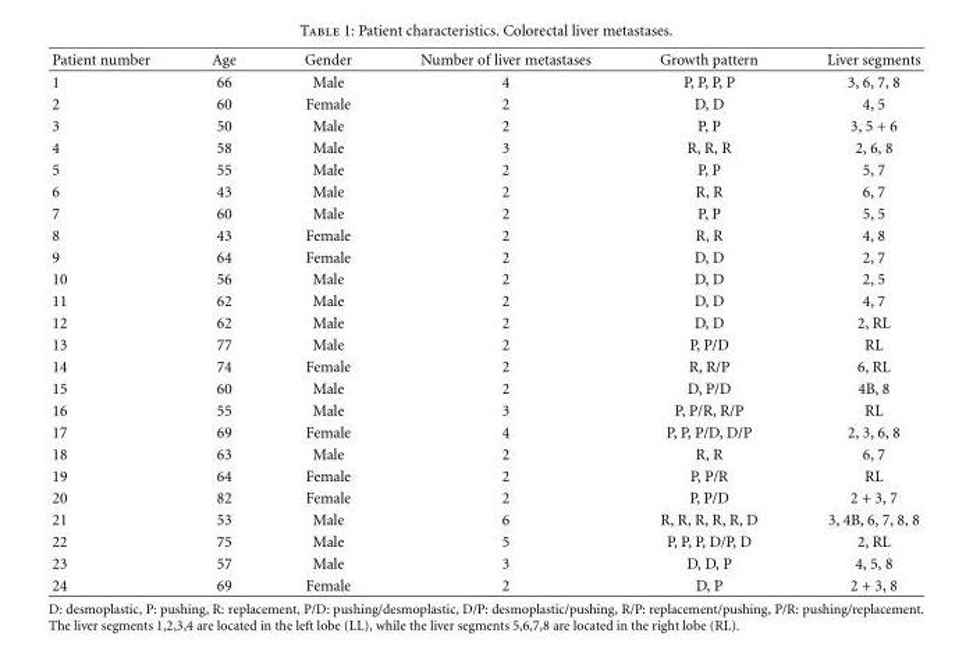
<table><thead><tr><td>Patient number</td><td>Age</td><td>Gender</td><td>Number of liver metastases</td><td>Growth pattern</td><td>Liver segments</td></tr></thead><tbody><tr><td>1</td><td>66</td><td>Male</td><td>4</td><td>P, P, P, P</td><td>3, 6, 7, 8</td></tr><tr><td>2</td><td>60</td><td>Female</td><td>2</td><td>D, D</td><td>4, 5</td></tr><tr><td>3</td><td>50</td><td>Male</td><td>2</td><td>P, P</td><td>3, 5 + 6</td></tr><tr><td>4</td><td>58</td><td>Male</td><td>3</td><td>R, R, R</td><td>2, 6, 8</td></tr><tr><td>5</td><td>55</td><td>Male</td><td>2</td><td>P, P</td><td>5, 7</td></tr><tr><td>6</td><td>43</td><td>Male</td><td>2</td><td>R, R</td><td>6, 7</td></tr><tr><td>7</td><td>60</td><td>Male</td><td>2</td><td>P, P</td><td>5, 5</td></tr><tr><td>8</td><td>43</td><td>Female</td><td>2</td><td>R, R</td><td>4, 8</td></tr><tr><td>9</td><td>64</td><td>Female</td><td>2</td><td>D, D</td><td>2, 7</td></tr><tr><td>10</td><td>56</td><td>Male</td><td>2</td><td>D, D</td><td>2, 5</td></tr><tr><td>11</td><td>62</td><td>Male</td><td>2</td><td>D, D</td><td>4, 7</td></tr><tr><td>12</td><td>62</td><td>Male</td><td>2</td><td>D, D</td><td>2, RL</td></tr><tr><td>13</td><td>77</td><td>Male</td><td>2</td><td>P, P/D</td><td>RL</td></tr><tr><td>14</td><td>74</td><td>Female</td><td>2</td><td>R, R/P</td><td>6, RL</td></tr><tr><td>15</td><td>60</td><td>Male</td><td>2</td><td>D, P/D</td><td>4B, 8</td></tr><tr><td>16</td><td>55</td><td>Male</td><td>3</td><td>P, P/R, R/P</td><td>RL</td></tr><tr><td>17</td><td>69</td><td>Female</td><td>4</td><td>P, P, P/D, D/P</td><td>2, 3, 6, 8</td></tr><tr><td>18</td><td>63</td><td>Male</td><td>2</td><td>R, R</td><td>6, 7</td></tr><tr><td>19</td><td>64</td><td>Female</td><td>2</td><td>P, P/R</td><td>RL</td></tr><tr><td>20</td><td>82</td><td>Female</td><td>2</td><td>P, P/D</td><td>2 + 3, 7</td></tr><tr><td>21</td><td>53</td><td>Male</td><td>6</td><td>R, R, R, R, R, D</td><td>3, 4B, 6, 7, 8, 8</td></tr><tr><td>22</td><td>75</td><td>Male</td><td>5</td><td>P, P, P, D/P, D</td><td>2, RL</td></tr><tr><td>23</td><td>57</td><td>Male</td><td>3</td><td>D, D, P</td><td>4, 5, 8</td></tr><tr><td>24</td><td>69</td><td>Female</td><td>2</td><td>D, P</td><td>2 + 3, 8</td></tr></tbody></table>